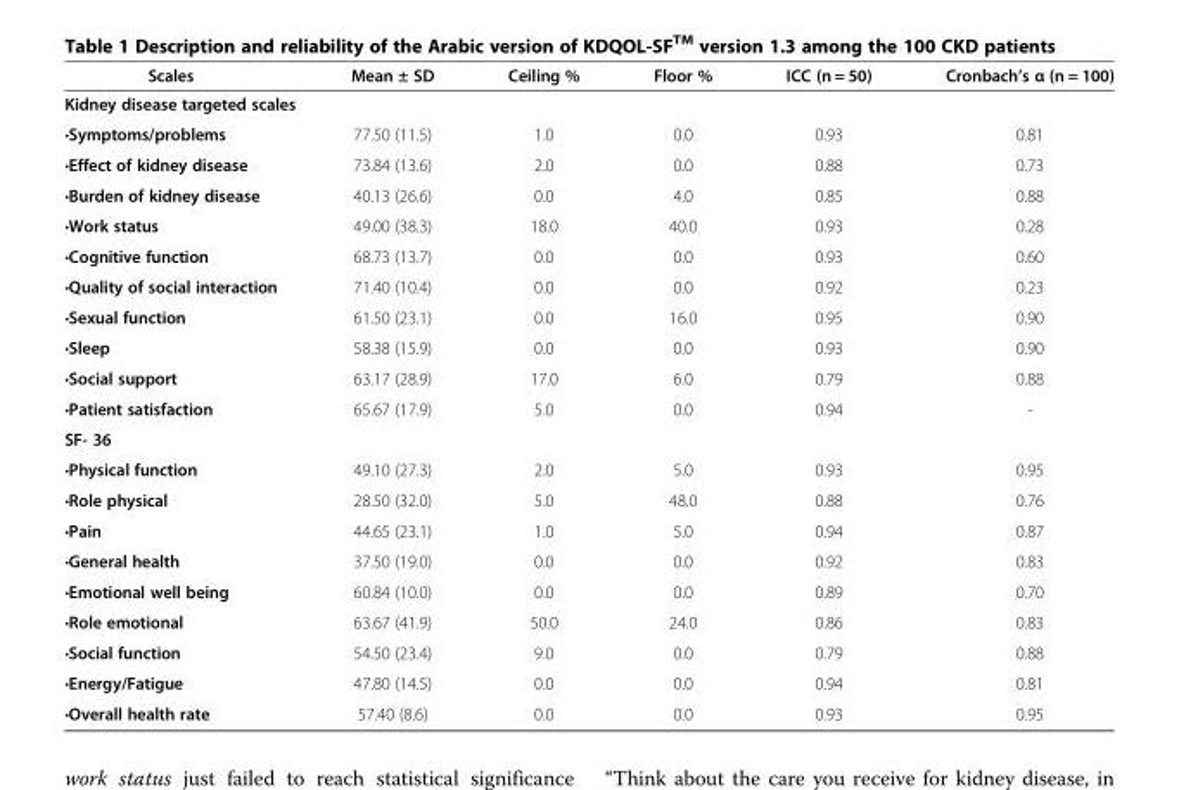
<table><thead><tr><td>Scales</td><td>Mean ± SD</td><td>Ceiling %</td><td>Floor %</td><td>ICC (n = 50)</td><td>Cronbach’s α (n = 100)</td></tr></thead><tbody><tr><td colspan="6">Kidney disease targeted scales</td></tr><tr><td>•Symptoms/problems</td><td>77.50 (11.5)</td><td>1.0</td><td>0.0</td><td>0.93</td><td>0.81</td></tr><tr><td>•Effect of kidney disease</td><td>73.84 (13.6)</td><td>2.0</td><td>0.0</td><td>0.88</td><td>0.73</td></tr><tr><td>•Burden of kidney disease</td><td>40.13 (26.6)</td><td>0.0</td><td>4.0</td><td>0.85</td><td>0.88</td></tr><tr><td>•Work status</td><td>49.00 (38.3)</td><td>18.0</td><td>40.0</td><td>0.93</td><td>0.28</td></tr><tr><td>•Cognitive function</td><td>68.73 (13.7)</td><td>0.0</td><td>0.0</td><td>0.93</td><td>0.60</td></tr><tr><td>•Quality of social interaction</td><td>71.40 (10.4)</td><td>0.0</td><td>0.0</td><td>0.92</td><td>0.23</td></tr><tr><td>•Sexual function</td><td>61.50 (23.1)</td><td>0.0</td><td>16.0</td><td>0.95</td><td>0.90</td></tr><tr><td>•Sleep</td><td>58.38 (15.9)</td><td>0.0</td><td>0.0</td><td>0.93</td><td>0.90</td></tr><tr><td>•Social support</td><td>63.17 (28.9)</td><td>17.0</td><td>6.0</td><td>0.79</td><td>0.88</td></tr><tr><td>•Patient satisfaction</td><td>65.67 (17.9)</td><td>5.0</td><td>0.0</td><td>0.94</td><td>-</td></tr><tr><td colspan="6">SF- 36</td></tr><tr><td>•Physical function</td><td>49.10 (27.3)</td><td>2.0</td><td>5.0</td><td>0.93</td><td>0.95</td></tr><tr><td>•Role physical</td><td>28.50 (32.0)</td><td>5.0</td><td>48.0</td><td>0.88</td><td>0.76</td></tr><tr><td>•Pain</td><td>44.65 (23.1)</td><td>1.0</td><td>5.0</td><td>0.94</td><td>0.87</td></tr><tr><td>•General health</td><td>37.50 (19.0)</td><td>0.0</td><td>0.0</td><td>0.92</td><td>0.83</td></tr><tr><td>•Emotional well being</td><td>60.84 (10.0)</td><td>0.0</td><td>0.0</td><td>0.89</td><td>0.70</td></tr><tr><td>•Role emotional</td><td>63.67 (41.9)</td><td>50.0</td><td>24.0</td><td>0.86</td><td>0.83</td></tr><tr><td>•Social function</td><td>54.50 (23.4)</td><td>9.0</td><td>0.0</td><td>0.79</td><td>0.88</td></tr><tr><td>•Energy/Fatigue</td><td>47.80 (14.5)</td><td>0.0</td><td>0.0</td><td>0.94</td><td>0.81</td></tr><tr><td>•Overall health rate</td><td>57.40 (8.6)</td><td>0.0</td><td>0.0</td><td>0.93</td><td>0.95</td></tr></tbody></table>